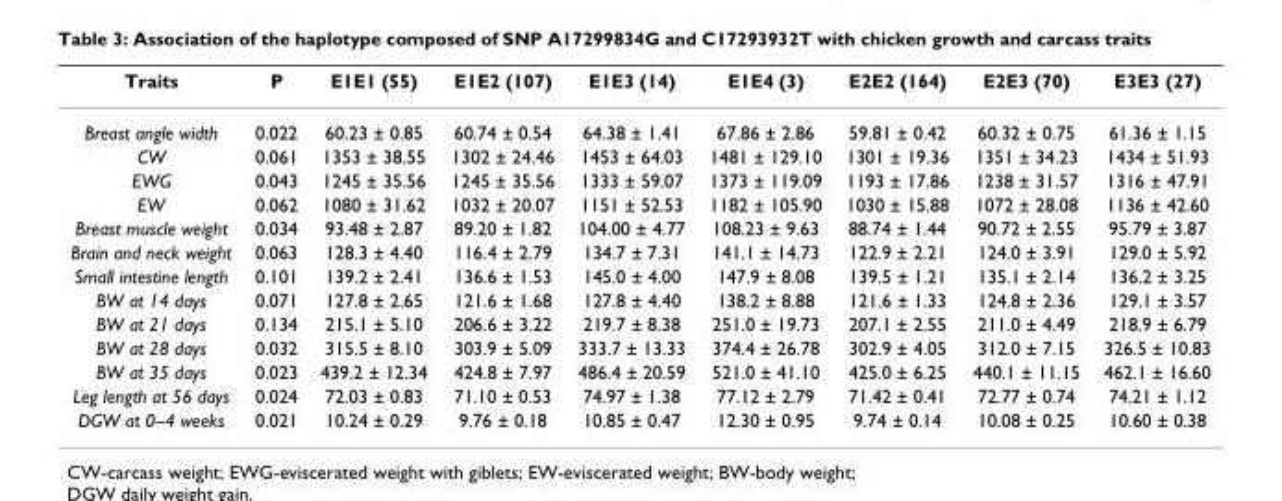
<table><thead><tr><td>Traits</td><td>P</td><td>E1E1 (55)</td><td>E1E2 (107)</td><td>E1E3 (14)</td><td>E1E4 (3)</td><td>E2E2 (164)</td><td>E2E3 (70)</td><td>E3E3 (27)</td></tr></thead><tbody><tr><td>Breast angle width</td><td>0.022</td><td>60.23 ± 0.85</td><td>60.74 ± 0.54</td><td>64.38 ± 1.41</td><td>67.86 ± 2.86</td><td>59.81 ± 0.42</td><td>60.32 ± 0.75</td><td>61.36 ± 1.15</td></tr><tr><td>CW</td><td>0.061</td><td>1353 ± 38.55</td><td>1302 ± 24.46</td><td>1453 ± 64.03</td><td>1481 ± 129.10</td><td>1301 ± 19.36</td><td>1351 ± 34.23</td><td>1434 ± 51.93</td></tr><tr><td>EWG</td><td>0.043</td><td>1245 ± 35.56</td><td>1245 ± 35.56</td><td>1333 ± 59.07</td><td>1373 ± 119.09</td><td>1193 ± 17.86</td><td>1238 ± 31.57</td><td>1316 ± 47.91</td></tr><tr><td>EW</td><td>0.062</td><td>1080 ± 31.62</td><td>1032 ± 20.07</td><td>1151 ± 52.53</td><td>1182 ± 105.90</td><td>1030 ± 15.88</td><td>1072 ± 28.08</td><td>1136 ± 42.60</td></tr><tr><td>Breast muscle weight</td><td>0.034</td><td>93.48 ± 2.87</td><td>89.20 ± 1.82</td><td>104.00 ± 4.77</td><td>108.23 ± 9.63</td><td>88.74 ± 1.44</td><td>90.72 ± 2.55</td><td>95.79 ± 3.87</td></tr><tr><td>Brain and neck weight</td><td>0.063</td><td>128.3 ± 4.40</td><td>116.4 ± 2.79</td><td>134.7 ± 7.31</td><td>141.1 ± 14.73</td><td>122.9 ± 2.21</td><td>124.0 ± 3.91</td><td>129.0 ± 5.92</td></tr><tr><td>Small intestine length</td><td>0.101</td><td>139.2 ± 2.41</td><td>136.6 ± 1.53</td><td>145.0 ± 4.00</td><td>147.9 ± 8.08</td><td>139.5 ± 1.21</td><td>135.1 ± 2.14</td><td>136.2 ± 3.25</td></tr><tr><td>BW at 14 days</td><td>0.071</td><td>127.8 ± 2.65</td><td>121.6 ± 1.68</td><td>127.8 ± 4.40</td><td>138.2 ± 8.88</td><td>121.6 ± 1.33</td><td>124.8 ± 2.36</td><td>129.1 ± 3.57</td></tr><tr><td>BW at 21 days</td><td>0.134</td><td>215.1 ± 5.10</td><td>206.6 ± 3.22</td><td>219.7 ± 8.38</td><td>251.0 ± 19.73</td><td>207.1 ± 2.55</td><td>211.0 ± 4.49</td><td>218.9 ± 6.79</td></tr><tr><td>BW at 28 days</td><td>0.032</td><td>315.5 ± 8.10</td><td>303.9 ± 5.09</td><td>333.7 ± 13.33</td><td>374.4 ± 26.78</td><td>302.9 ± 4.05</td><td>312.0 ± 7.15</td><td>326.5 ± 10.83</td></tr><tr><td>BW at 35 days</td><td>0.023</td><td>439.2 ± 12.34</td><td>424.8 ± 7.97</td><td>486.4 ± 20.59</td><td>521.0 ± 41.10</td><td>425.0 ± 6.25</td><td>440.1 ± 11.15</td><td>462.1 ± 16.60</td></tr><tr><td>Leg length at 56 days</td><td>0.024</td><td>72.03 ± 0.83</td><td>71.10 ± 0.53</td><td>74.97 ± 1.38</td><td>77.12 ± 2.79</td><td>71.42 ± 0.41</td><td>72.77 ± 0.74</td><td>74.21 ± 1.12</td></tr><tr><td>DGW at 0–4 weeks</td><td>0.021</td><td>10.24 ± 0.29</td><td>9.76 ± 0.18</td><td>10.85 ± 0.47</td><td>12.30 ± 0.95</td><td>9.74 ± 0.14</td><td>10.08 ± 0.25</td><td>10.60 ± 0.38</td></tr></tbody></table>